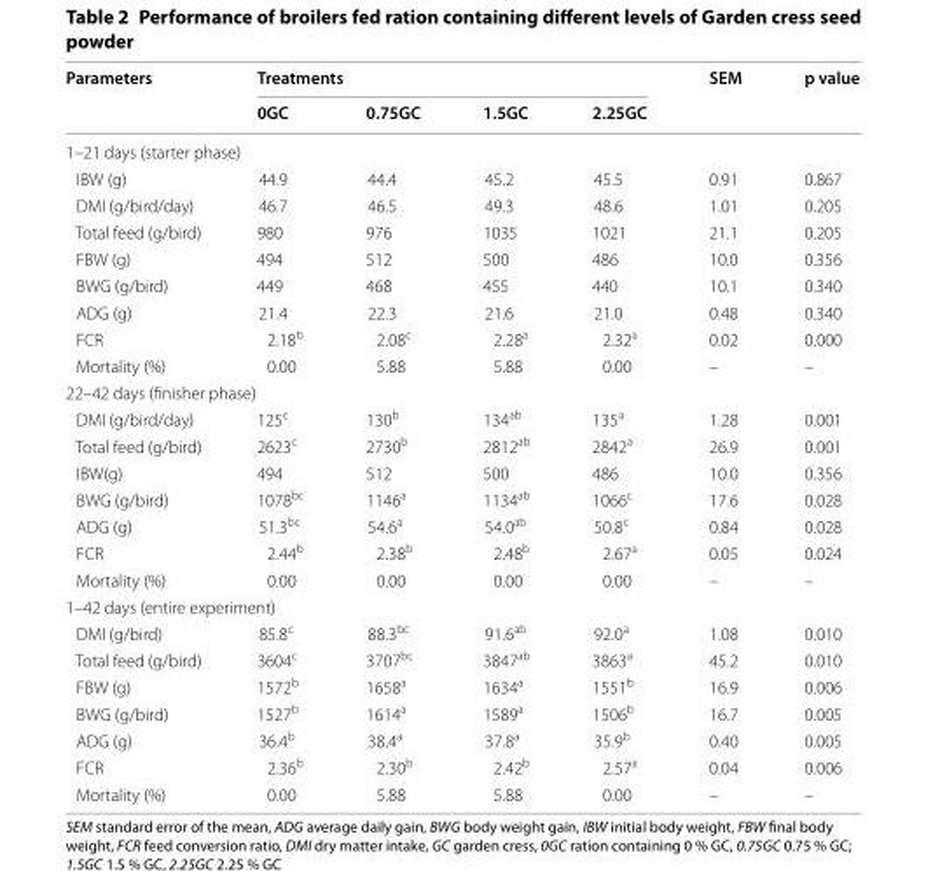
<table><thead><tr><td rowspan="2">Parameters</td><td colspan="4">Treatments</td><td rowspan="2">SEM</td><td rowspan="2">p value</td></tr><tr><td>0GC</td><td>0.75GC</td><td>1.5GC</td><td>2.25GC</td></tr></thead><tbody><tr><td colspan="7">1–21 days (starter phase)</td></tr><tr><td>IBW (g)</td><td>44.9</td><td>44.4</td><td>45.2</td><td>45.5</td><td>0.91</td><td>0.867</td></tr><tr><td>DMI (g/bird/day)</td><td>46.7</td><td>46.5</td><td>49.3</td><td>48.6</td><td>1.01</td><td>0.205</td></tr><tr><td>Total feed (g/bird)</td><td>980</td><td>976</td><td>1035</td><td>1021</td><td>21.1</td><td>0.205</td></tr><tr><td>FBW (g)</td><td>494</td><td>512</td><td>500</td><td>486</td><td>10.0</td><td>0.356</td></tr><tr><td>BWG (g/bird)</td><td>449</td><td>468</td><td>455</td><td>440</td><td>10.1</td><td>0.340</td></tr><tr><td>ADG (g)</td><td>21.4</td><td>22.3</td><td>21.6</td><td>21.0</td><td>0.48</td><td>0.340</td></tr><tr><td>FCR</td><td>2.18<sup>b</sup></td><td>2.08<sup>c</sup></td><td>2.28<sup>a</sup></td><td>2.32<sup>a</sup></td><td>0.02</td><td>0.000</td></tr><tr><td>Mortality (%)</td><td>0.00</td><td>5.88</td><td>5.88</td><td>0.00</td><td>–</td><td>–</td></tr><tr><td colspan="7">22–42 days (finisher phase)</td></tr><tr><td>DMI (g/bird/day)</td><td>125<sup>c</sup></td><td>130<sup>b</sup></td><td>134<sup>ab</sup></td><td>135<sup>a</sup></td><td>1.28</td><td>0.001</td></tr><tr><td>Total feed (g/bird)</td><td>2623<sup>c</sup></td><td>2730<sup>b</sup></td><td>2812<sup>ab</sup></td><td>2842<sup>a</sup></td><td>26.9</td><td>0.001</td></tr><tr><td>IBW(g)</td><td>494</td><td>512</td><td>500</td><td>486</td><td>10.0</td><td>0.356</td></tr><tr><td>BWG (g/bird)</td><td>1078<sup>bc</sup></td><td>1146<sup>a</sup></td><td>1134<sup>ab</sup></td><td>1066<sup>c</sup></td><td>17.6</td><td>0.028</td></tr><tr><td>ADG (g)</td><td>51.3<sup>bc</sup></td><td>54.6<sup>a</sup></td><td>54.0<sup>ab</sup></td><td>50.8<sup>c</sup></td><td>0.84</td><td>0.028</td></tr><tr><td>FCR</td><td>2.44<sup>b</sup></td><td>2.38<sup>b</sup></td><td>2.48<sup>b</sup></td><td>2.67<sup>a</sup></td><td>0.05</td><td>0.024</td></tr><tr><td>Mortality (%)</td><td>0.00</td><td>0.00</td><td>0.00</td><td>0.00</td><td>–</td><td>–</td></tr><tr><td colspan="7">1–42 days (entire experiment)</td></tr><tr><td>DMI (g/bird)</td><td>85.8<sup>c</sup></td><td>88.3<sup>bc</sup></td><td>91.6<sup>ab</sup></td><td>92.0<sup>a</sup></td><td>1.08</td><td>0.010</td></tr><tr><td>Total feed (g/bird)</td><td>3604<sup>c</sup></td><td>3707<sup>bc</sup></td><td>3847<sup>ab</sup></td><td>3863<sup>a</sup></td><td>45.2</td><td>0.010</td></tr><tr><td>FBW (g)</td><td>1572<sup>b</sup></td><td>1658<sup>a</sup></td><td>1634<sup>a</sup></td><td>1551<sup>b</sup></td><td>16.9</td><td>0.006</td></tr><tr><td>BWG (g/bird)</td><td>1527<sup>b</sup></td><td>1614<sup>a</sup></td><td>1589<sup>a</sup></td><td>1506<sup>b</sup></td><td>16.7</td><td>0.005</td></tr><tr><td>ADG (g)</td><td>36.4<sup>b</sup></td><td>38.4<sup>a</sup></td><td>37.8<sup>a</sup></td><td>35.9<sup>b</sup></td><td>0.40</td><td>0.005</td></tr><tr><td>FCR</td><td>2.36<sup>b</sup></td><td>2.30<sup>b</sup></td><td>2.42<sup>b</sup></td><td>2.57<sup>a</sup></td><td>0.04</td><td>0.006</td></tr><tr><td>Mortality (%)</td><td>0.00</td><td>5.88</td><td>5.88</td><td>0.00</td><td>–</td><td>–</td></tr></tbody></table>